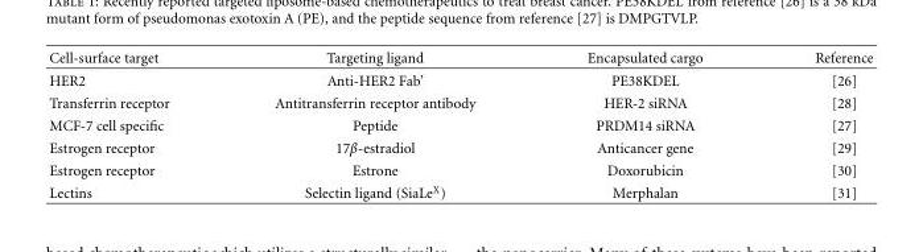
<table><thead><tr><td>Cell-surface target</td><td>Targeting ligand</td><td>Encapsulated cargo</td><td>Reference</td></tr></thead><tbody><tr><td>HER2</td><td>Anti-HER2 Fab’</td><td>PE38KDEL</td><td>[26]</td></tr><tr><td>Transferrin receptor</td><td>Antitransferrin receptor antibody</td><td>HER-2 siRNA</td><td>[28]</td></tr><tr><td>MCF-7 cell specific</td><td>Peptide</td><td>PRDM14 siRNA</td><td>[27]</td></tr><tr><td>Estrogen receptor</td><td>17β-estradiol</td><td>Anticancer gene</td><td>[29]</td></tr><tr><td>Estrogen receptor</td><td>Estrone</td><td>Doxorubicin</td><td>[30]</td></tr><tr><td>Lectins</td><td>Selectin ligand (SiaLe<sup>X</sup>)</td><td>Merphalan</td><td>[31]</td></tr></tbody></table>